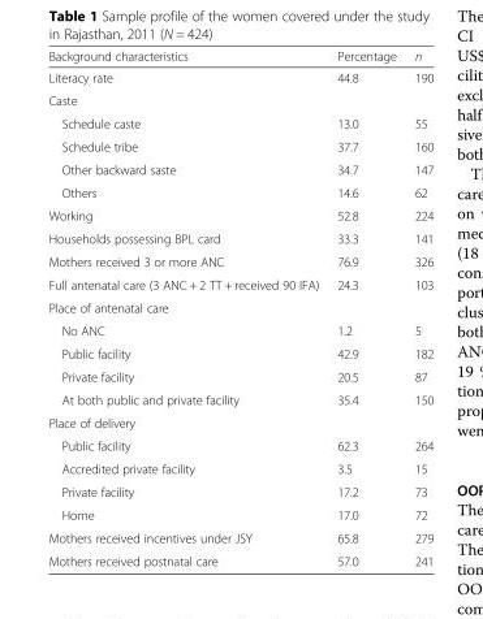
<table><thead><tr><td>Background characteristics</td><td>Percentage</td><td>n</td></tr></thead><tbody><tr><td>Literacy rate</td><td>44.8</td><td>190</td></tr><tr><td colspan="3">Caste</td></tr><tr><td>Schedule caste</td><td>13.0</td><td>55</td></tr><tr><td>Schedule tribe</td><td>37.7</td><td>160</td></tr><tr><td>Other backward saste</td><td>34.7</td><td>147</td></tr><tr><td>Others</td><td>14.6</td><td>62</td></tr><tr><td>Working</td><td>52.8</td><td>224</td></tr><tr><td>Households possessing BPL card</td><td>33.3</td><td>141</td></tr><tr><td>Mothers received 3 or more ANC</td><td>76.9</td><td>326</td></tr><tr><td>Full antenatal care (3 ANC + 2 TT + received 90 IFA)</td><td>24.3</td><td>103</td></tr><tr><td colspan="3">Place of antenatal care</td></tr><tr><td>No ANC</td><td>1.2</td><td>5</td></tr><tr><td>Public facility</td><td>42.9</td><td>182</td></tr><tr><td>Private facility</td><td>20.5</td><td>87</td></tr><tr><td>At both public and private facility</td><td>35.4</td><td>150</td></tr><tr><td colspan="3">Place of delivery</td></tr><tr><td>Public facility</td><td>62.3</td><td>264</td></tr><tr><td>Accredited private facility</td><td>3.5</td><td>15</td></tr><tr><td>Private facility</td><td>17.2</td><td>73</td></tr><tr><td>Home</td><td>17.0</td><td>72</td></tr><tr><td>Mothers received incentives under JSY</td><td>65.8</td><td>279</td></tr><tr><td>Mothers received postnatal care</td><td>57.0</td><td>241</td></tr></tbody></table>